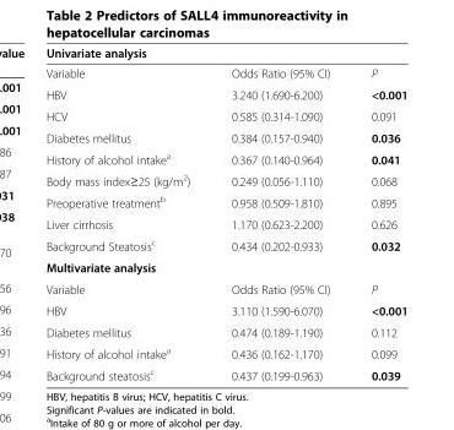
<table><thead><tr><td>Univariate analysis</td><td></td><td></td></tr></thead><tbody><tr><td>Variable</td><td>Odds Ratio (95% CI)</td><td>P</td></tr><tr><td>HBV</td><td>3.240 (1.690-6.200)</td><td>&lt;0.001</td></tr><tr><td>HCV</td><td>0.585 (0.314-1.090)</td><td>0.091</td></tr><tr><td>Diabetes mellitus</td><td>0.384 (0.157-0.940)</td><td>0.036</td></tr><tr><td>History of alcohol intake<sup>a</sup></td><td>0.367 (0.140-0.964)</td><td>0.041</td></tr><tr><td>Body mass index≥25 (kg/m<sup>2</sup>)</td><td>0.249 (0.056-1.110)</td><td>0.068</td></tr><tr><td>Preoperative treatment<sup>b</sup></td><td>0.958 (0.509-1.810)</td><td>0.895</td></tr><tr><td>Liver cirrhosis</td><td>1.170 (0.623-2.200)</td><td>0.626</td></tr><tr><td>Background Steatosis<sup>c</sup></td><td>0.434 (0.202-0.933)</td><td>0.032</td></tr><tr><td colspan="3">Multivariate analysis</td></tr><tr><td>Variable</td><td>Odds Ratio (95% CI)</td><td>P</td></tr><tr><td>HBV</td><td>3.110 (1.590-6.070)</td><td>&lt;0.001</td></tr><tr><td>Diabetes mellitus</td><td>0.474 (0.189-1.190)</td><td>0.112</td></tr><tr><td>History of alcohol intake<sup>a</sup></td><td>0.436 (0.162-1.170)</td><td>0.099</td></tr><tr><td>Background steatosis<sup>c</sup></td><td>0.437 (0.199-0.963)</td><td>0.039</td></tr></tbody></table>